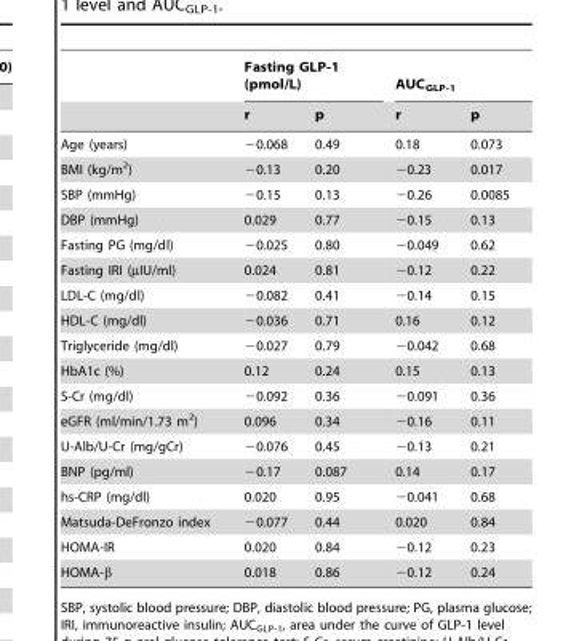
<table><thead><tr><td rowspan="2"></td><td colspan="2">Fasting GLP-1 (pmol/L)</td><td colspan="2">AUC<sub>GLP-1</sub></td></tr><tr><td>r</td><td>p</td><td>r</td><td>p</td></tr></thead><tbody><tr><td>Age (years)</td><td>−0.068</td><td>0.49</td><td>0.18</td><td>0.073</td></tr><tr><td>BMI (kg/m<sup>2</sup>)</td><td>−0.13</td><td>0.20</td><td>−0.23</td><td>0.017</td></tr><tr><td>SBP (mmHg)</td><td>−0.15</td><td>0.13</td><td>−0.26</td><td>0.0085</td></tr><tr><td>DBP (mmHg)</td><td>0.029</td><td>0.77</td><td>−0.15</td><td>0.13</td></tr><tr><td>Fasting PG (mg/dl)</td><td>−0.025</td><td>0.80</td><td>−0.049</td><td>0.62</td></tr><tr><td>Fasting IRI (µIU/ml)</td><td>0.024</td><td>0.81</td><td>−0.12</td><td>0.22</td></tr><tr><td>LDL-C (mg/dl)</td><td>−0.082</td><td>0.41</td><td>−0.14</td><td>0.15</td></tr><tr><td>HDL-C (mg/dl)</td><td>−0.036</td><td>0.71</td><td>0.16</td><td>0.12</td></tr><tr><td>Triglyceride (mg/dl)</td><td>−0.027</td><td>0.79</td><td>−0.042</td><td>0.68</td></tr><tr><td>HbA1c (%)</td><td>0.12</td><td>0.24</td><td>0.15</td><td>0.13</td></tr><tr><td>S-Cr (mg/dl)</td><td>−0.092</td><td>0.36</td><td>−0.091</td><td>0.36</td></tr><tr><td>eGFR (ml/min/1.73 m<sup>2</sup>)</td><td>0.096</td><td>0.34</td><td>−0.16</td><td>0.11</td></tr><tr><td>U-Alb/U-Cr (mg/gCr)</td><td>−0.076</td><td>0.45</td><td>−0.13</td><td>0.21</td></tr><tr><td>BNP (pg/ml)</td><td>−0.17</td><td>0.087</td><td>0.14</td><td>0.17</td></tr><tr><td>hs-CRP (mg/dl)</td><td>0.020</td><td>0.95</td><td>−0.041</td><td>0.68</td></tr><tr><td>Matsuda-DeFronzo index</td><td>−0.077</td><td>0.44</td><td>0.020</td><td>0.84</td></tr><tr><td>HOMA-IR</td><td>0.020</td><td>0.84</td><td>−0.12</td><td>0.23</td></tr><tr><td>HOMA-β</td><td>0.018</td><td>0.86</td><td>−0.12</td><td>0.24</td></tr></tbody></table>